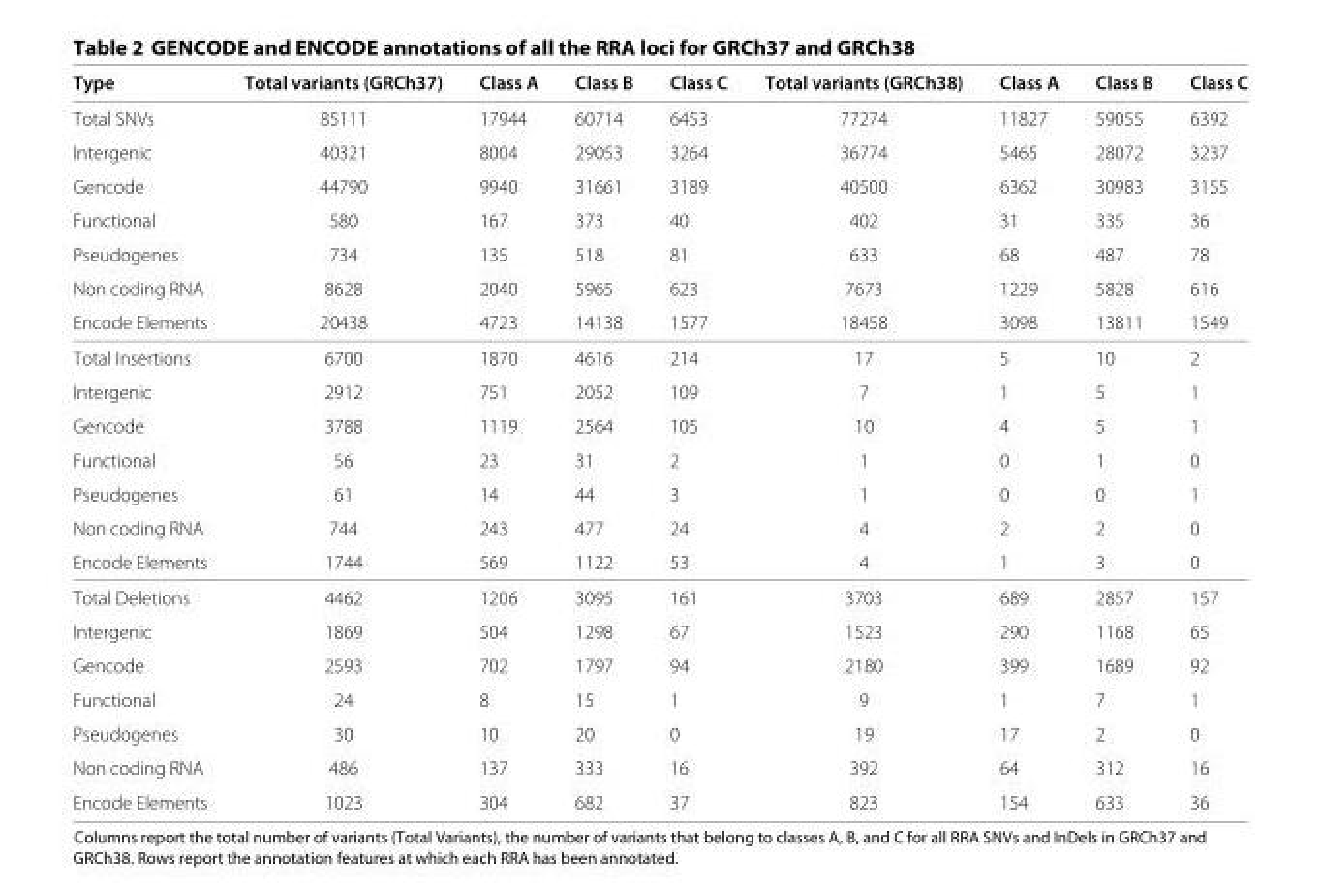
<table><thead><tr><td>Type</td><td>Total variants (GRCh37)</td><td>Class A</td><td>Class B</td><td>Class C</td><td>Total variants (GRCh38)</td><td>Class A</td><td>Class B</td><td>Class C</td></tr></thead><tbody><tr><td>Total SNVs</td><td>85111</td><td>17944</td><td>60714</td><td>6453</td><td>77274</td><td>11827</td><td>59055</td><td>6392</td></tr><tr><td>Intergenic</td><td>40321</td><td>8004</td><td>29053</td><td>3264</td><td>36774</td><td>5465</td><td>28072</td><td>3237</td></tr><tr><td>Gencode</td><td>44790</td><td>9940</td><td>31661</td><td>3189</td><td>40500</td><td>6362</td><td>30983</td><td>3155</td></tr><tr><td>Functional</td><td>580</td><td>167</td><td>373</td><td>40</td><td>402</td><td>31</td><td>335</td><td>36</td></tr><tr><td>Pseudogenes</td><td>734</td><td>135</td><td>518</td><td>81</td><td>633</td><td>68</td><td>487</td><td>78</td></tr><tr><td>Non coding RNA</td><td>8628</td><td>2040</td><td>5965</td><td>623</td><td>7673</td><td>1229</td><td>5828</td><td>616</td></tr><tr><td>Encode Elements</td><td>20438</td><td>4723</td><td>14138</td><td>1577</td><td>18458</td><td>3098</td><td>13811</td><td>1549</td></tr><tr><td>Total Insertions</td><td>6700</td><td>1870</td><td>4616</td><td>214</td><td>17</td><td>5</td><td>10</td><td>2</td></tr><tr><td>Intergenic</td><td>2912</td><td>751</td><td>2052</td><td>109</td><td>7</td><td>1</td><td>5</td><td>1</td></tr><tr><td>Gencode</td><td>3788</td><td>1119</td><td>2564</td><td>105</td><td>10</td><td>4</td><td>5</td><td>1</td></tr><tr><td>Functional</td><td>56</td><td>23</td><td>31</td><td>2</td><td>1</td><td>0</td><td>1</td><td>0</td></tr><tr><td>Pseudogenes</td><td>61</td><td>14</td><td>44</td><td>3</td><td>1</td><td>0</td><td>0</td><td>1</td></tr><tr><td>Non coding RNA</td><td>744</td><td>243</td><td>477</td><td>24</td><td>4</td><td>2</td><td>2</td><td>0</td></tr><tr><td>Encode Elements</td><td>1744</td><td>569</td><td>1122</td><td>53</td><td>4</td><td>1</td><td>3</td><td>0</td></tr><tr><td>Total Deletions</td><td>4462</td><td>1206</td><td>3095</td><td>161</td><td>3703</td><td>689</td><td>2857</td><td>157</td></tr><tr><td>Intergenic</td><td>1869</td><td>504</td><td>1298</td><td>67</td><td>1523</td><td>290</td><td>1168</td><td>65</td></tr><tr><td>Gencode</td><td>2593</td><td>702</td><td>1797</td><td>94</td><td>2180</td><td>399</td><td>1689</td><td>92</td></tr><tr><td>Functional</td><td>24</td><td>8</td><td>15</td><td>1</td><td>9</td><td>1</td><td>7</td><td>1</td></tr><tr><td>Pseudogenes</td><td>30</td><td>10</td><td>20</td><td>0</td><td>19</td><td>17</td><td>2</td><td>0</td></tr><tr><td>Non coding RNA</td><td>486</td><td>137</td><td>333</td><td>16</td><td>392</td><td>64</td><td>312</td><td>16</td></tr><tr><td>Encode Elements</td><td>1023</td><td>304</td><td>682</td><td>37</td><td>823</td><td>154</td><td>633</td><td>36</td></tr></tbody></table>